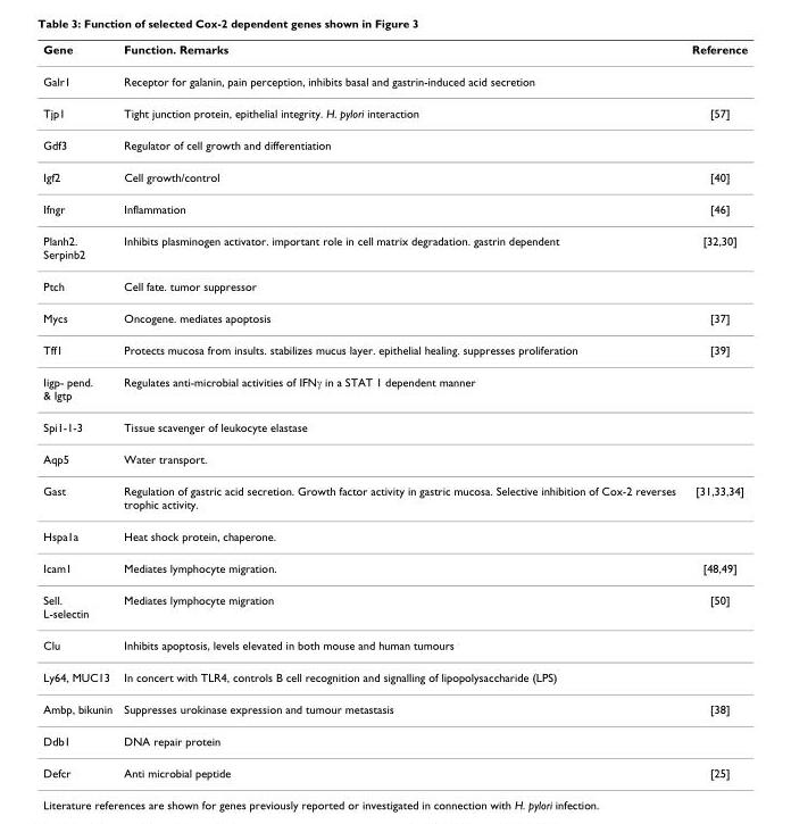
<table><thead><tr><td>Gene</td><td>Function. Remarks</td><td>Reference</td></tr></thead><tbody><tr><td>Galr1</td><td>Receptor for galanin, pain perception, inhibits basal and gastrin-induced acid secretion</td><td></td></tr><tr><td>Tjp1</td><td>Tight junction protein, epithelial integrity. H. pylori interaction</td><td>[57]</td></tr><tr><td>Gdf3</td><td>Regulator of cell growth and differentiation</td><td></td></tr><tr><td>Igf2</td><td>Cell growth/control</td><td>[40]</td></tr><tr><td>Ifngr</td><td>Inflammation</td><td>[46]</td></tr><tr><td>Planh2. Serpinb2</td><td>Inhibits plasminogen activator. important role in cell matrix degradation. gastrin dependent</td><td>[32,30]</td></tr><tr><td>Ptch</td><td>Cell fate. tumor suppressor</td><td></td></tr><tr><td>Mycs</td><td>Oncogene. mediates apoptosis</td><td>[37]</td></tr><tr><td>Tff1</td><td>Protects mucosa from insults. stabilizes mucus layer. epithelial healing. suppresses proliferation</td><td>[39]</td></tr><tr><td>Iigp- pend. &amp; Igtp</td><td>Regulates anti-microbial activities of IFNγ in a STAT 1 dependent manner</td><td></td></tr><tr><td>Spi1-1-3</td><td>Tissue scavenger of leukocyte elastase</td><td></td></tr><tr><td>Aqp5</td><td>Water transport.</td><td></td></tr><tr><td>Gast</td><td>Regulation of gastric acid secretion. Growth factor activity in gastric mucosa. Selective inhibition of Cox-2 reverses trophic activity.</td><td>[31,33,34]</td></tr><tr><td>Hspa1a</td><td>Heat shock protein, chaperone.</td><td></td></tr><tr><td>Icam1</td><td>Mediates lymphocyte migration.</td><td>[48,49]</td></tr><tr><td>Sell. L-selectin</td><td>Mediates lymphocyte migration</td><td>[50]</td></tr><tr><td>Clu</td><td>Inhibits apoptosis, levels elevated in both mouse and human tumours</td><td></td></tr><tr><td>Ly64, MUC13</td><td>In concert with TLR4, controls B cell recognition and signalling of lipopolysaccharide (LPS)</td><td></td></tr><tr><td>Ambp, bikunin</td><td>Suppresses urokinase expression and tumour metastasis</td><td>[38]</td></tr><tr><td>Ddb1</td><td>DNA repair protein</td><td></td></tr><tr><td>Defcr</td><td>Anti microbial peptide</td><td>[25]</td></tr></tbody></table>